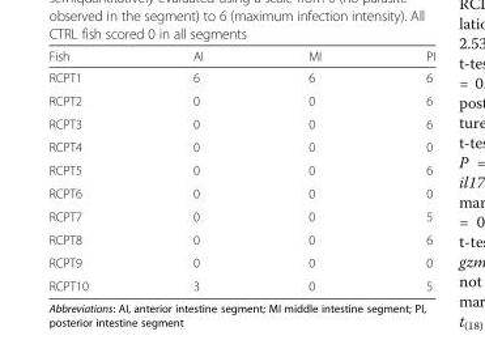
<table><thead><tr><td>Fish</td><td>AI</td><td>MI</td><td>PI</td></tr></thead><tbody><tr><td>RCPT1</td><td>6</td><td>6</td><td>6</td></tr><tr><td>RCPT2</td><td>0</td><td>0</td><td>6</td></tr><tr><td>RCPT3</td><td>0</td><td>0</td><td>6</td></tr><tr><td>RCPT4</td><td>0</td><td>0</td><td>0</td></tr><tr><td>RCPT5</td><td>0</td><td>0</td><td>6</td></tr><tr><td>RCPT6</td><td>0</td><td>0</td><td>0</td></tr><tr><td>RCPT7</td><td>0</td><td>0</td><td>5</td></tr><tr><td>RCPT8</td><td>0</td><td>0</td><td>6</td></tr><tr><td>RCPT9</td><td>0</td><td>0</td><td>0</td></tr><tr><td>RCPT10</td><td>3</td><td>0</td><td>5</td></tr></tbody></table>